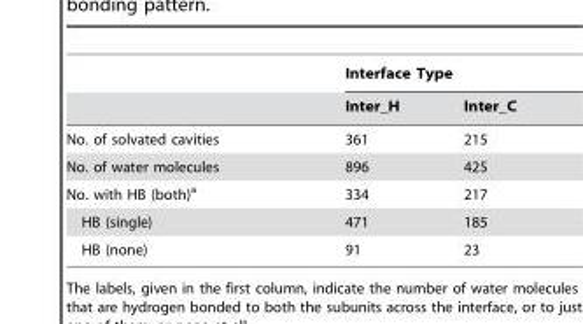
<table><thead><tr><td rowspan="2"></td><td colspan="2">Interface Type</td></tr><tr><td>Inter_H</td><td>Inter_C</td></tr></thead><tbody><tr><td>No. of solvated cavities</td><td>361</td><td>215</td></tr><tr><td>No. of water molecules</td><td>896</td><td>425</td></tr><tr><td>No. with HB (both)<sup>a</sup></td><td>334</td><td>217</td></tr><tr><td>HB (single)</td><td>471</td><td>185</td></tr><tr><td>HB (none)</td><td>91</td><td>23</td></tr></tbody></table>